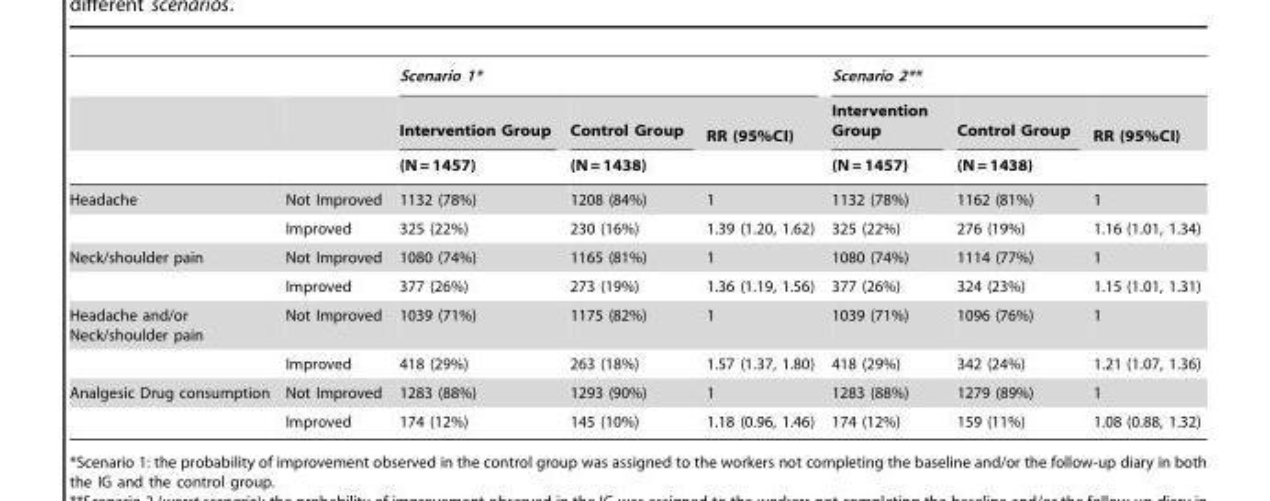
<table><thead><tr><td rowspan="3"></td><td rowspan="3"></td><td colspan="3">Scenario 1*</td><td colspan="3">Scenario 2**</td></tr><tr><td rowspan="2">Intervention Group (N = 1457)</td><td rowspan="2">Control Group (N = 1438)</td><td rowspan="2">RR (95%CI)</td><td rowspan="2">Intervention Group (N = 1457)</td><td rowspan="2">Control Group (N = 1438)</td><td rowspan="2">RR (95%CI)</td></tr><tr></tr></thead><tbody><tr><td rowspan="2">Headache</td><td>Not Improved</td><td>1132 (78%)</td><td>1208 (84%)</td><td>1</td><td>1132 (78%)</td><td>1162 (81%)</td><td>1</td></tr><tr><td>Improved</td><td>325 (22%)</td><td>230 (16%)</td><td>1.39 (1.20, 1.62)</td><td>325 (22%)</td><td>276 (19%)</td><td>1.16 (1.01, 1.34)</td></tr><tr><td rowspan="2">Neck/shoulder pain</td><td>Not Improved</td><td>1080 (74%)</td><td>1165 (81%)</td><td>1</td><td>1080 (74%)</td><td>1114 (77%)</td><td>1</td></tr><tr><td>Improved</td><td>377 (26%)</td><td>273 (19%)</td><td>1.36 (1.19, 1.56)</td><td>377 (26%)</td><td>324 (23%)</td><td>1.15 (1.01, 1.31)</td></tr><tr><td rowspan="2">Headache and/or Neck/shoulder pain</td><td>Not Improved</td><td>1039 (71%)</td><td>1175 (82%)</td><td>1</td><td>1039 (71%)</td><td>1096 (76%)</td><td>1</td></tr><tr><td>Improved</td><td>418 (29%)</td><td>263 (18%)</td><td>1.57 (1.37, 1.80)</td><td>418 (29%)</td><td>342 (24%)</td><td>1.21 (1.07, 1.36)</td></tr><tr><td rowspan="2">Analgesic Drug consumption</td><td>Not Improved</td><td>1283 (88%)</td><td>1293 (90%)</td><td>1</td><td>1283 (88%)</td><td>1279 (89%)</td><td>1</td></tr><tr><td>Improved</td><td>174 (12%)</td><td>145 (10%)</td><td>1.18 (0.96, 1.46)</td><td>174 (12%)</td><td>159 (11%)</td><td>1.08 (0.88, 1.32)</td></tr></tbody></table>